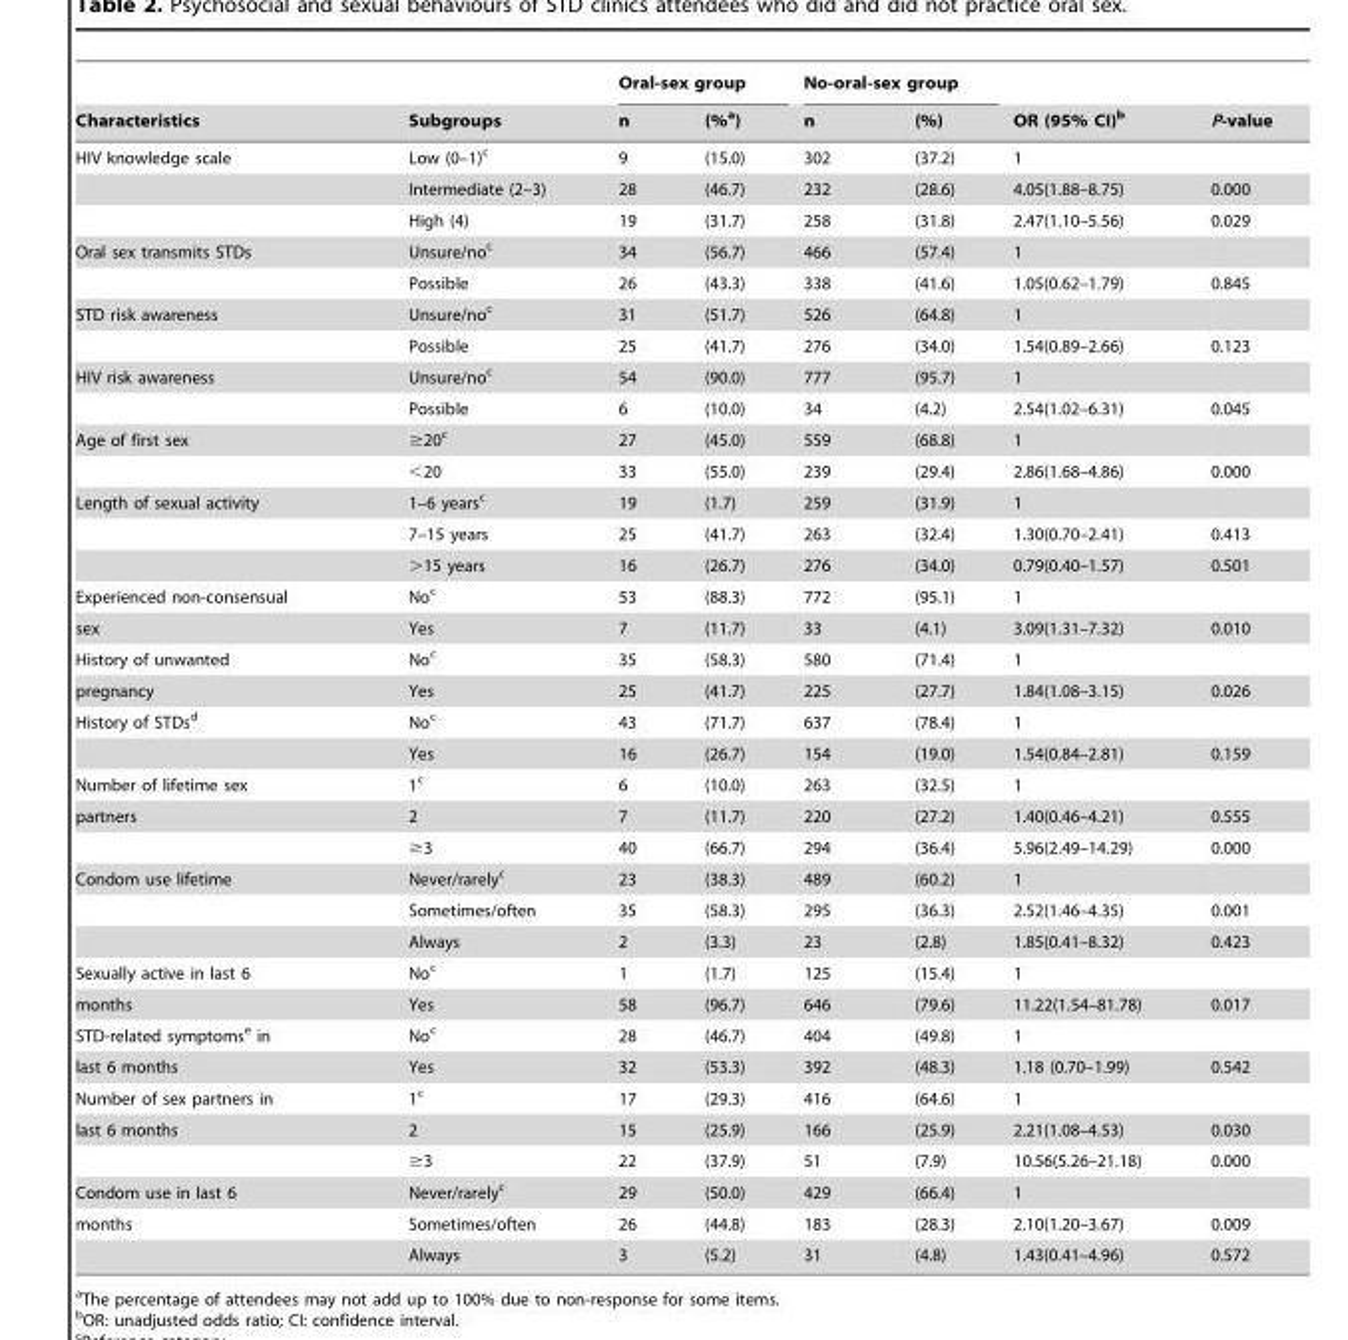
<table><thead><tr><td rowspan="2">Characteristics</td><td rowspan="2">Subgroups</td><td colspan="2">Oral-sex group</td><td colspan="2">No-oral-sex group</td><td rowspan="2">OR (95% CI)<sup>b</sup></td><td rowspan="2">P-value</td></tr><tr><td>n</td><td>(%<sup>a</sup>)</td><td>n</td><td>(%)</td></tr></thead><tbody><tr><td rowspan="3">HIV knowledge scale</td><td>Low (0–1)<sup>c</sup></td><td>9</td><td>(15.0)</td><td>302</td><td>(37.2)</td><td>1</td><td></td></tr><tr><td>Intermediate (2–3)</td><td>28</td><td>(46.7)</td><td>232</td><td>(28.6)</td><td>4.05(1.88–8.75)</td><td>0.000</td></tr><tr><td>High (4)</td><td>19</td><td>(31.7)</td><td>258</td><td>(31.8)</td><td>2.47(1.10–5.56)</td><td>0.029</td></tr><tr><td rowspan="2">Oral sex transmits STDs</td><td>Unsure/no<sup>c</sup></td><td>34</td><td>(56.7)</td><td>466</td><td>(57.4)</td><td>1</td><td></td></tr><tr><td>Possible</td><td>26</td><td>(43.3)</td><td>338</td><td>(41.6)</td><td>1.05(0.62–1.79)</td><td>0.845</td></tr><tr><td rowspan="2">STD risk awareness</td><td>Unsure/no<sup>c</sup></td><td>31</td><td>(51.7)</td><td>526</td><td>(64.8)</td><td>1</td><td></td></tr><tr><td>Possible</td><td>25</td><td>(41.7)</td><td>276</td><td>(34.0)</td><td>1.54(0.89–2.66)</td><td>0.123</td></tr><tr><td rowspan="2">HIV risk awareness</td><td>Unsure/no<sup>c</sup></td><td>54</td><td>(90.0)</td><td>777</td><td>(95.7)</td><td>1</td><td></td></tr><tr><td>Possible</td><td>6</td><td>(10.0)</td><td>34</td><td>(4.2)</td><td>2.54(1.02–6.31)</td><td>0.045</td></tr><tr><td rowspan="2">Age of first sex</td><td>≥20<sup>c</sup></td><td>27</td><td>(45.0)</td><td>559</td><td>(68.8)</td><td>1</td><td></td></tr><tr><td>&lt;20</td><td>33</td><td>(55.0)</td><td>239</td><td>(29.4)</td><td>2.86(1.68–4.86)</td><td>0.000</td></tr><tr><td rowspan="3">Length of sexual activity</td><td>1–6 years<sup>c</sup></td><td>19</td><td>(1.7)</td><td>259</td><td>(31.9)</td><td>1</td><td></td></tr><tr><td>7–15 years</td><td>25</td><td>(41.7)</td><td>263</td><td>(32.4)</td><td>1.30(0.70–2.41)</td><td>0.413</td></tr><tr><td>&gt;15 years</td><td>16</td><td>(26.7)</td><td>276</td><td>(34.0)</td><td>0.79(0.40–1.57)</td><td>0.501</td></tr><tr><td>Experienced non-consensual</td><td>No<sup>c</sup></td><td>53</td><td>(88.3)</td><td>772</td><td>(95.1)</td><td>1</td><td></td></tr><tr><td>sex</td><td>Yes</td><td>7</td><td>(11.7)</td><td>33</td><td>(4.1)</td><td>3.09(1.31–7.32)</td><td>0.010</td></tr><tr><td>History of unwanted</td><td>No<sup>c</sup></td><td>35</td><td>(58.3)</td><td>580</td><td>(71.4)</td><td>1</td><td></td></tr><tr><td>pregnancy</td><td>Yes</td><td>25</td><td>(41.7)</td><td>225</td><td>(27.7)</td><td>1.84(1.08–3.15)</td><td>0.026</td></tr><tr><td rowspan="2">History of STDs<sup>d</sup></td><td>No<sup>c</sup></td><td>43</td><td>(71.7)</td><td>637</td><td>(78.4)</td><td>1</td><td></td></tr><tr><td>Yes</td><td>16</td><td>(26.7)</td><td>154</td><td>(19.0)</td><td>1.54(0.84–2.81)</td><td>0.159</td></tr><tr><td>Number of lifetime sex</td><td>1<sup>c</sup></td><td>6</td><td>(10.0)</td><td>263</td><td>(32.5)</td><td>1</td><td></td></tr><tr><td rowspan="2">partners</td><td>2</td><td>7</td><td>(11.7)</td><td>220</td><td>(27.2)</td><td>1.40(0.46–4.21)</td><td>0.555</td></tr><tr><td>≥3</td><td>40</td><td>(66.7)</td><td>294</td><td>(36.4)</td><td>5.96(2.49–14.29)</td><td>0.000</td></tr><tr><td rowspan="3">Condom use lifetime</td><td>Never/rarely<sup>c</sup></td><td>23</td><td>(38.3)</td><td>489</td><td>(60.2)</td><td>1</td><td></td></tr><tr><td>Sometimes/often</td><td>35</td><td>(58.3)</td><td>295</td><td>(36.3)</td><td>2.52(1.46–4.35)</td><td>0.001</td></tr><tr><td>Always</td><td>2</td><td>(3.3)</td><td>23</td><td>(2.8)</td><td>1.85(0.41–8.32)</td><td>0.423</td></tr><tr><td>Sexually active in last 6</td><td>No<sup>c</sup></td><td>1</td><td>(1.7)</td><td>125</td><td>(15.4)</td><td>1</td><td></td></tr><tr><td>months</td><td>Yes</td><td>58</td><td>(96.7)</td><td>646</td><td>(79.6)</td><td>11.22(1.54–81.78)</td><td>0.017</td></tr><tr><td>STD-related symptoms<sup>e</sup> in</td><td>No<sup>c</sup></td><td>28</td><td>(46.7)</td><td>404</td><td>(49.8)</td><td>1</td><td></td></tr><tr><td>last 6 months</td><td>Yes</td><td>32</td><td>(53.3)</td><td>392</td><td>(48.3)</td><td>1.18 (0.70–1.99)</td><td>0.542</td></tr><tr><td>Number of sex partners in</td><td>1<sup>c</sup></td><td>17</td><td>(29.3)</td><td>416</td><td>(64.6)</td><td>1</td><td></td></tr><tr><td rowspan="2">last 6 months</td><td>2</td><td>15</td><td>(25.9)</td><td>166</td><td>(25.9)</td><td>2.21(1.08–4.53)</td><td>0.030</td></tr><tr><td>≥3</td><td>22</td><td>(37.9)</td><td>51</td><td>(7.9)</td><td>10.56(5.26–21.18)</td><td>0.000</td></tr><tr><td>Condom use in last 6</td><td>Never/rarely<sup>c</sup></td><td>29</td><td>(50.0)</td><td>429</td><td>(66.4)</td><td>1</td><td></td></tr><tr><td rowspan="2">months</td><td>Sometimes/often</td><td>26</td><td>(44.8)</td><td>183</td><td>(28.3)</td><td>2.10(1.20–3.67)</td><td>0.009</td></tr><tr><td>Always</td><td>3</td><td>(5.2)</td><td>31</td><td>(4.8)</td><td>1.43(0.41–4.96)</td><td>0.572</td></tr></tbody></table>